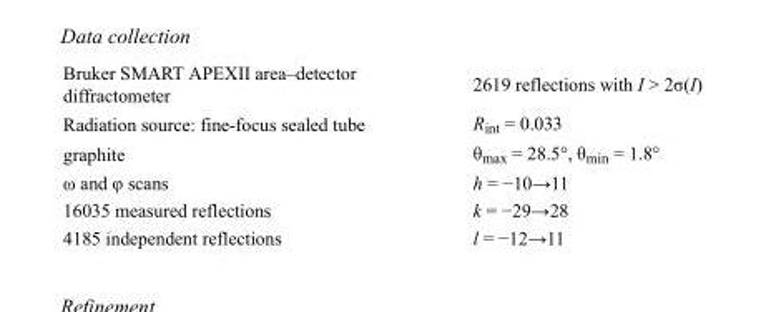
<table><tbody><tr><td>Bruker SMART APEXII area–detector diffractometer</td><td>2619 reflections with I &gt; 2σ(I)</td></tr><tr><td>Radiation source: fine-focus sealed tube</td><td>R<sub>int</sub> = 0.033</td></tr><tr><td>graphite</td><td>θ<sub>max</sub> = 28.5°, θ<sub>min</sub> = 1.8°</td></tr><tr><td>ω and φ scans</td><td>h = −10→11</td></tr><tr><td>16035 measured reflections</td><td>k = −29→28</td></tr><tr><td>4185 independent reflections</td><td>l = −12→11</td></tr></tbody></table>